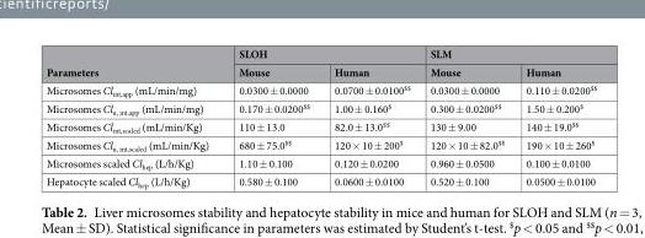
<table><thead><tr><td rowspan="2">Parameters</td><td colspan="2">SLOH</td><td colspan="2">SLM</td></tr><tr><td>Mouse</td><td>Human</td><td>Mouse</td><td>Human</td></tr></thead><tbody><tr><td>Microsomes Cl<sub>int,app</sub> (mL/min/mg)</td><td>0.0300 ± 0.0000</td><td>0.0700 ± 0.0100<sup>$$</sup></td><td>0.0300 ± 0.0000</td><td>0.110 ± 0.0200<sup>$$</sup></td></tr><tr><td>Microsomes Cl<sub>u, int,app</sub> (mL/min/mg)</td><td>0.170 ± 0.0200<sup>$$</sup></td><td>1.00 ± 0.160<sup>$</sup></td><td>0.300 ± 0.0200<sup>$$</sup></td><td>1.50 ± 0.200<sup>$</sup></td></tr><tr><td>Microsomes Cl<sub>int,scaled</sub> (mL/min/Kg)</td><td>110 ± 13.0</td><td>82.0 ± 13.0<sup>$$</sup></td><td>130 ± 9.00</td><td>140 ± 19.0<sup>$$</sup></td></tr><tr><td>Microsomes Cl<sub>u, int,scaled</sub> (mL/min/Kg)</td><td>680 ± 75.0<sup>$$</sup></td><td>120 × 10 ± 200<sup>$</sup></td><td>120 × 10 ± 82.0<sup>$$</sup></td><td>190 × 10 ± 260<sup>$</sup></td></tr><tr><td>Microsomes scaled Cl<sub>hep</sub> (L/h/Kg)</td><td>1.10 ± 0.100</td><td>0.120 ± 0.0200</td><td>0.960 ± 0.0500</td><td>0.100 ± 0.0100</td></tr><tr><td>Hepatocyte scaled Cl<sub>hep</sub> (L/h/Kg)</td><td>0.580 ± 0.100</td><td>0.0600 ± 0.0100</td><td>0.520 ± 0.100</td><td>0.0500 ± 0.0100</td></tr></tbody></table>